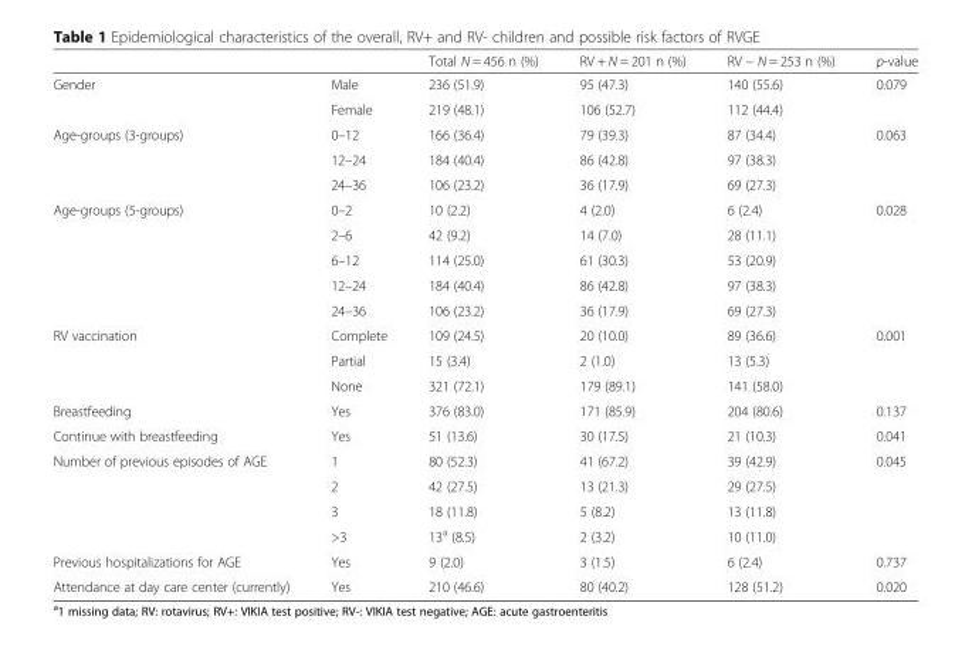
<table><thead><tr><td></td><td></td><td>Total N = 456 n (%)</td><td>RV + N = 201 n (%)</td><td>RV – N = 253 n (%)</td><td>p-value</td></tr></thead><tbody><tr><td rowspan="2">Gender</td><td>Male</td><td>236 (51.9)</td><td>95 (47.3)</td><td>140 (55.6)</td><td rowspan="2">0.079</td></tr><tr><td>Female</td><td>219 (48.1)</td><td>106 (52.7)</td><td>112 (44.4)</td></tr><tr><td rowspan="3">Age-groups (3-groups)</td><td>0–12</td><td>166 (36.4)</td><td>79 (39.3)</td><td>87 (34.4)</td><td rowspan="3">0.063</td></tr><tr><td>12–24</td><td>184 (40.4)</td><td>86 (42.8)</td><td>97 (38.3)</td></tr><tr><td>24–36</td><td>106 (23.2)</td><td>36 (17.9)</td><td>69 (27.3)</td></tr><tr><td rowspan="5">Age-groups (5-groups)</td><td>0–2</td><td>10 (2.2)</td><td>4 (2.0)</td><td>6 (2.4)</td><td rowspan="5">0.028</td></tr><tr><td>2–6</td><td>42 (9.2)</td><td>14 (7.0)</td><td>28 (11.1)</td></tr><tr><td>6–12</td><td>114 (25.0)</td><td>61 (30.3)</td><td>53 (20.9)</td></tr><tr><td>12–24</td><td>184 (40.4)</td><td>86 (42.8)</td><td>97 (38.3)</td></tr><tr><td>24–36</td><td>106 (23.2)</td><td>36 (17.9)</td><td>69 (27.3)</td></tr><tr><td rowspan="3">RV vaccination</td><td>Complete</td><td>109 (24.5)</td><td>20 (10.0)</td><td>89 (36.6)</td><td rowspan="3">0.001</td></tr><tr><td>Partial</td><td>15 (3.4)</td><td>2 (1.0)</td><td>13 (5.3)</td></tr><tr><td>None</td><td>321 (72.1)</td><td>179 (89.1)</td><td>141 (58.0)</td></tr><tr><td>Breastfeeding</td><td>Yes</td><td>376 (83.0)</td><td>171 (85.9)</td><td>204 (80.6)</td><td>0.137</td></tr><tr><td>Continue with breastfeeding</td><td>Yes</td><td>51 (13.6)</td><td>30 (17.5)</td><td>21 (10.3)</td><td>0.041</td></tr><tr><td rowspan="4">Number of previous episodes of AGE</td><td>1</td><td>80 (52.3)</td><td>41 (67.2)</td><td>39 (42.9)</td><td rowspan="4">0.045</td></tr><tr><td>2</td><td>42 (27.5)</td><td>13 (21.3)</td><td>29 (27.5)</td></tr><tr><td>3</td><td>18 (11.8)</td><td>5 (8.2)</td><td>13 (11.8)</td></tr><tr><td>&gt;3</td><td>13<sup>a</sup> (8.5)</td><td>2 (3.2)</td><td>10 (11.0)</td></tr><tr><td>Previous hospitalizations for AGE</td><td>Yes</td><td>9 (2.0)</td><td>3 (1.5)</td><td>6 (2.4)</td><td>0.737</td></tr><tr><td>Attendance at day care center (currently)</td><td>Yes</td><td>210 (46.6)</td><td>80 (40.2)</td><td>128 (51.2)</td><td>0.020</td></tr></tbody></table>